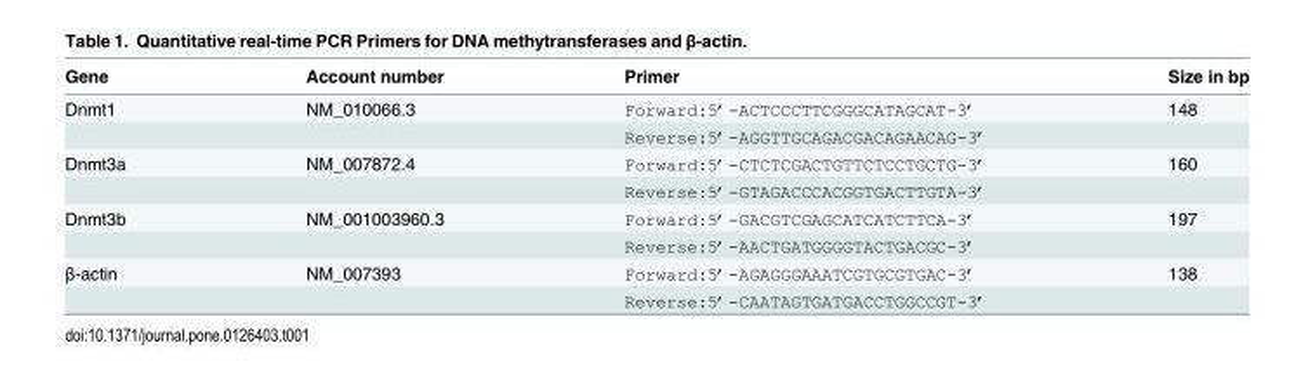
<table><thead><tr><td>Gene</td><td>Account number</td><td>Primer</td><td>Size in bp</td></tr></thead><tbody><tr><td rowspan="2">Dnmt1</td><td>NM_010066.3</td><td>Forward:5’-ACTCCCTTCGGGCATAGCAT-3’</td><td>148</td></tr><tr><td></td><td>Reverse:5’-AGGTTGCAGACGACAGAACAG-3’</td><td></td></tr><tr><td rowspan="2">Dnmt3a</td><td>NM_007872.4</td><td>Forward:5’-CTCTCGACTGTTCTCCTGCTG-3’</td><td>160</td></tr><tr><td></td><td>Reverse:5’-GTAGACCCACGGTGACTTGTA-3’</td><td></td></tr><tr><td rowspan="2">Dnmt3b</td><td>NM_001003960.3</td><td>Forward:5’-GACGTCGAGCATCATCTTCA-3’</td><td>197</td></tr><tr><td></td><td>Reverse:5’-AACTGATGGGGTACTGACGC-3’</td><td></td></tr><tr><td rowspan="2">β-actin</td><td>NM_007393</td><td>Forward:5’-AGAGGGAAATCGTGCGTGAC-3’</td><td>138</td></tr><tr><td></td><td>Reverse:5’-CAATAGTGATGACCTGGCCGT-3’</td><td></td></tr></tbody></table>